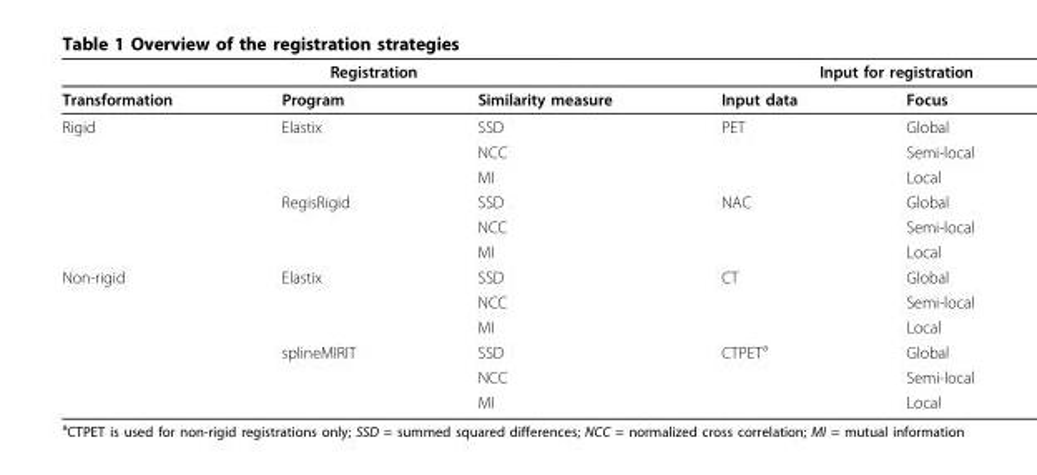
<table><thead><tr><td rowspan="2">Transformation</td><td rowspan="2">Registration Program</td><td rowspan="2">Similarity measure</td><td colspan="2">Input for registration</td></tr><tr><td>Input data</td><td>Focus</td></tr></thead><tbody><tr><td rowspan="6">Rigid</td><td>Elastix</td><td>SSD</td><td>PET</td><td>Global</td></tr><tr><td></td><td>NCC</td><td></td><td>Semi-local</td></tr><tr><td></td><td>MI</td><td></td><td>Local</td></tr><tr><td>RegisRigid</td><td>SSD</td><td>NAC</td><td>Global</td></tr><tr><td></td><td>NCC</td><td></td><td>Semi-local</td></tr><tr><td></td><td>MI</td><td></td><td>Local</td></tr><tr><td rowspan="6">Non-rigid</td><td>Elastix</td><td>SSD</td><td>CT</td><td>Global</td></tr><tr><td></td><td>NCC</td><td></td><td>Semi-local</td></tr><tr><td></td><td>MI</td><td></td><td>Local</td></tr><tr><td>splineMIRIT</td><td>SSD</td><td>CTPET<sup>a</sup></td><td>Global</td></tr><tr><td></td><td>NCC</td><td></td><td>Semi-local</td></tr><tr><td></td><td>MI</td><td></td><td>Local</td></tr></tbody></table>